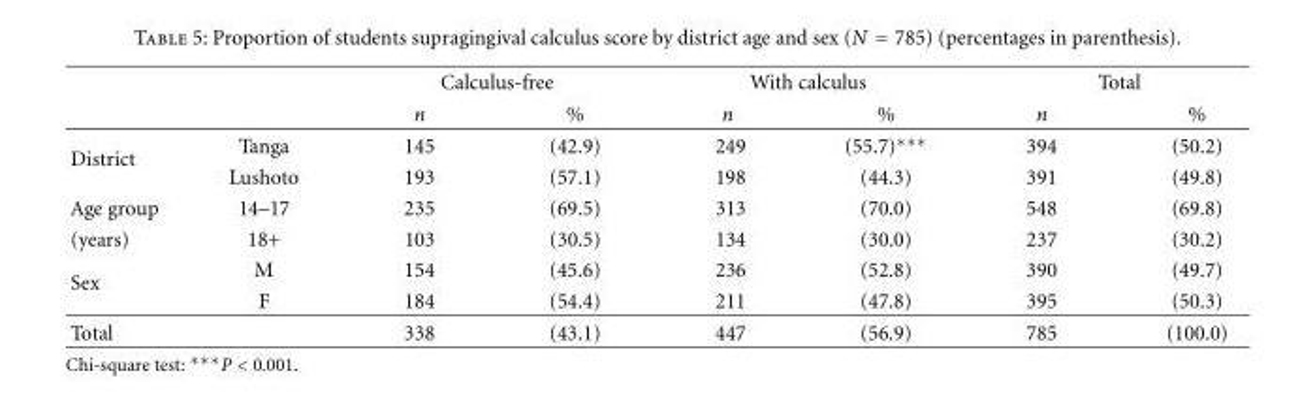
<table><thead><tr><td rowspan="2"></td><td rowspan="2"></td><td colspan="2">Calculus-free</td><td colspan="2">With calculus</td><td colspan="2">Total</td></tr><tr><td>n</td><td>%</td><td>n</td><td>%</td><td>n</td><td>%</td></tr></thead><tbody><tr><td rowspan="2">District</td><td>Tanga</td><td>145</td><td>(42.9)</td><td>249</td><td>(55.7)∗∗∗</td><td>394</td><td>(50.2)</td></tr><tr><td>Lushoto</td><td>193</td><td>(57.1)</td><td>198</td><td>(44.3)</td><td>391</td><td>(49.8)</td></tr><tr><td>Age group</td><td>14–17</td><td>235</td><td>(69.5)</td><td>313</td><td>(70.0)</td><td>548</td><td>(69.8)</td></tr><tr><td>(years)</td><td>18+</td><td>103</td><td>(30.5)</td><td>134</td><td>(30.0)</td><td>237</td><td>(30.2)</td></tr><tr><td rowspan="2">Sex</td><td>M</td><td>154</td><td>(45.6)</td><td>236</td><td>(52.8)</td><td>390</td><td>(49.7)</td></tr><tr><td>F</td><td>184</td><td>(54.4)</td><td>211</td><td>(47.8)</td><td>395</td><td>(50.3)</td></tr><tr><td>Total</td><td></td><td>338</td><td>(43.1)</td><td>447</td><td>(56.9)</td><td>785</td><td>(100.0)</td></tr></tbody></table>